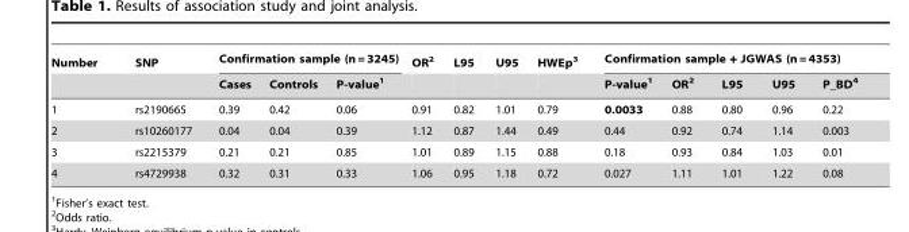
<table><thead><tr><td rowspan="2">Number</td><td rowspan="2">SNP</td><td colspan="3">Confirmation sample (n = 3245)</td><td rowspan="2">OR<sup>2</sup></td><td rowspan="2">L95</td><td rowspan="2">U95</td><td rowspan="2">HWEp<sup>3</sup></td><td colspan="5">Confirmation sample + JGWAS (n = 4353)</td></tr><tr><td>Cases</td><td>Controls</td><td>P-value<sup>1</sup></td><td>P-value<sup>1</sup></td><td>OR<sup>2</sup></td><td>L95</td><td>U95</td><td>P_BD<sup>4</sup></td></tr></thead><tbody><tr><td>1</td><td>rs2190665</td><td>0.39</td><td>0.42</td><td>0.06</td><td>0.91</td><td>0.82</td><td>1.01</td><td>0.79</td><td>0.0033</td><td>0.88</td><td>0.80</td><td>0.96</td><td>0.22</td></tr><tr><td>2</td><td>rs10260177</td><td>0.04</td><td>0.04</td><td>0.39</td><td>1.12</td><td>0.87</td><td>1.44</td><td>0.49</td><td>0.44</td><td>0.92</td><td>0.74</td><td>1.14</td><td>0.003</td></tr><tr><td>3</td><td>rs2215379</td><td>0.21</td><td>0.21</td><td>0.85</td><td>1.01</td><td>0.89</td><td>1.15</td><td>0.88</td><td>0.18</td><td>0.93</td><td>0.84</td><td>1.03</td><td>0.01</td></tr><tr><td>4</td><td>rs4729938</td><td>0.32</td><td>0.31</td><td>0.33</td><td>1.06</td><td>0.95</td><td>1.18</td><td>0.72</td><td>0.027</td><td>1.11</td><td>1.01</td><td>1.22</td><td>0.08</td></tr></tbody></table>